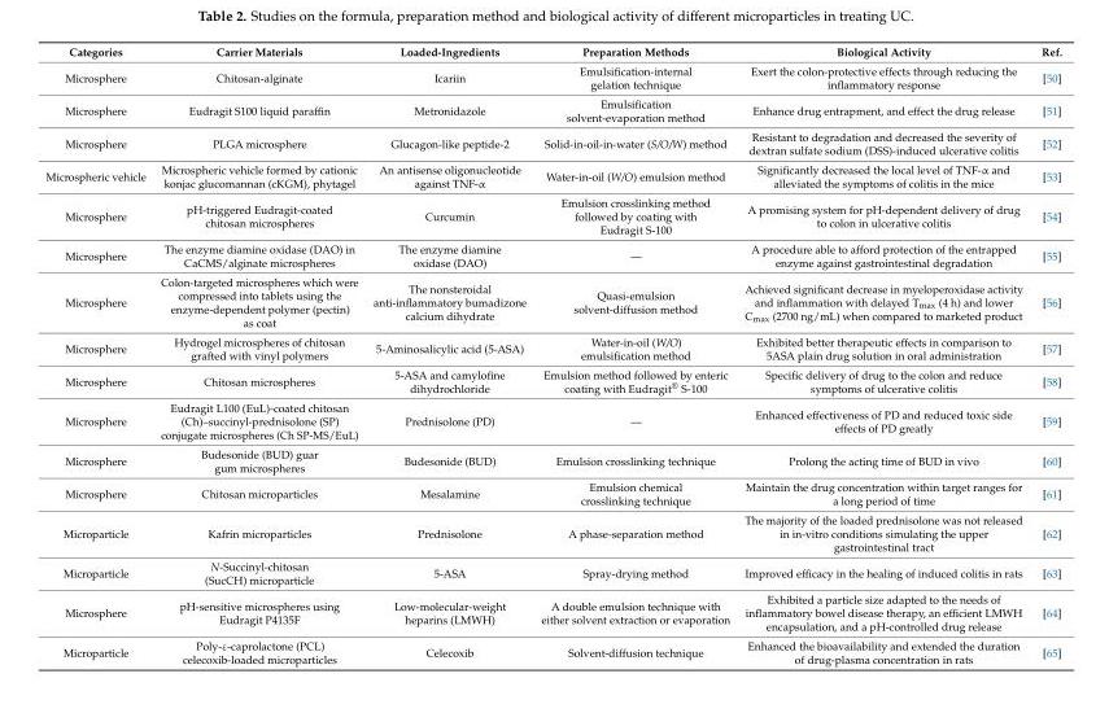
<table><thead><tr><td>Categories</td><td>Carrier Materials</td><td>Loaded-Ingredients</td><td>Preparation Methods</td><td>Biological Activity</td><td>Ref.</td></tr></thead><tbody><tr><td>Microsphere</td><td>Chitosan-alginate</td><td>Icariin</td><td>Emulsification-internal gelation technique</td><td>Exert the colon-protective effects through reducing the inflammatory response</td><td>[50]</td></tr><tr><td>Microsphere</td><td>Eudragit S100 liquid paraffin</td><td>Metronidazole</td><td>Emulsification solvent-evaporation method</td><td>Enhance drug entrapment, and effect the drug release</td><td>[51]</td></tr><tr><td>Microsphere</td><td>PLGA microsphere</td><td>Glucagon-like peptide-2</td><td>Solid-in-oil-in-water (S/O/W) method</td><td>Resistant to degradation and decreased the severity of dextran sulfate sodium (DSS)-induced ulcerative colitis</td><td>[52]</td></tr><tr><td>Microspheric vehicle</td><td>Microspheric vehicle formed by cationic konjac glucomannan (cKGM), phytagel</td><td>An antisense oligonucleotide against TNF-α</td><td>Water-in-oil (W/O) emulsion method</td><td>Significantly decreased the local level of TNF-α and alleviated the symptoms of colitis in the mice</td><td>[53]</td></tr><tr><td>Microsphere</td><td>pH-triggered Eudragit-coated chitosan microspheres</td><td>Curcumin</td><td>Emulsion crosslinking method followed by coating with Eudragit S-100</td><td>A promising system for pH-dependent delivery of drug to colon in ulcerative colitis</td><td>[54]</td></tr><tr><td>Microsphere</td><td>The enzyme diamine oxidase (DAO) in CaCMS/alginate microspheres</td><td>The enzyme diamine oxidase (DAO)</td><td>—</td><td>A procedure able to afford protection of the entrapped enzyme against gastrointestinal degradation</td><td>[55]</td></tr><tr><td>Microsphere</td><td>Colon-targeted microspheres which were compressed into tablets using the enzyme-dependent polymer (pectin) as coat</td><td>The nonsteroidal anti-inflammatory bumadizone calcium dihydrate</td><td>Quasi-emulsion solvent-diffusion method</td><td>Achieved significant decrease in myeloperoxidase activity and inflammation with delayed T<sub>max</sub> (4 h) and lower C<sub>max</sub> (2700 ng/mL) when compared to marketed product</td><td>[56]</td></tr><tr><td>Microsphere</td><td>Hydrogel microspheres of chitosan grafted with vinyl polymers</td><td>5-Aminosalicylic acid (5-ASA)</td><td>Water-in-oil (W/O) emulsification method</td><td>Exhibited better therapeutic effects in comparison to 5ASA plain drug solution in oral administration</td><td>[57]</td></tr><tr><td>Microsphere</td><td>Chitosan microspheres</td><td>5-ASA and camylofine dihydrochloride</td><td>Emulsion method followed by enteric coating with Eudragit<sup>®</sup> S-100</td><td>Specific delivery of drug to the colon and reduce symptoms of ulcerative colitis</td><td>[58]</td></tr><tr><td>Microsphere</td><td>Eudragit L100 (EuL)-coated chitosan (Ch)–succinyl-prednisolone (SP) conjugate microspheres (Ch SP-MS/EuL)</td><td>Prednisolone (PD)</td><td>—</td><td>Enhanced effectiveness of PD and reduced toxic side effects of PD greatly</td><td>[59]</td></tr><tr><td>Microsphere</td><td>Budesonide (BUD) guar gum microspheres</td><td>Budesonide (BUD)</td><td>Emulsion crosslinking technique</td><td>Prolong the acting time of BUD in vivo</td><td>[60]</td></tr><tr><td>Microsphere</td><td>Chitosan microparticles</td><td>Mesalamine</td><td>Emulsion chemical crosslinking technique</td><td>Maintain the drug concentration within target ranges for a long period of time</td><td>[61]</td></tr><tr><td>Microparticle</td><td>Kafrin microparticles</td><td>Prednisolone</td><td>A phase-separation method</td><td>The majority of the loaded prednisolone was not released in in-vitro conditions simulating the upper gastrointestinal tract</td><td>[62]</td></tr><tr><td>Microparticle</td><td>N-Succinyl-chitosan (SucCH) microparticle</td><td>5-ASA</td><td>Spray-drying method</td><td>Improved efficacy in the healing of induced colitis in rats</td><td>[63]</td></tr><tr><td>Microsphere</td><td>pH-sensitive microspheres using Eudragit P4135F</td><td>Low-molecular-weight heparins (LMWH)</td><td>A double emulsion technique with either solvent extraction or evaporation</td><td>Exhibited a particle size adapted to the needs of inflammatory bowel disease therapy, an efficient LMWH encapsulation, and a pH-controlled drug release</td><td>[64]</td></tr><tr><td>Microparticle</td><td>Poly-ε-caprolactone (PCL) celecoxib-loaded microparticles</td><td>Celecoxib</td><td>Solvent-diffusion technique</td><td>Enhanced the bioavailability and extended the duration of drug-plasma concentration in rats</td><td>[65]</td></tr></tbody></table>